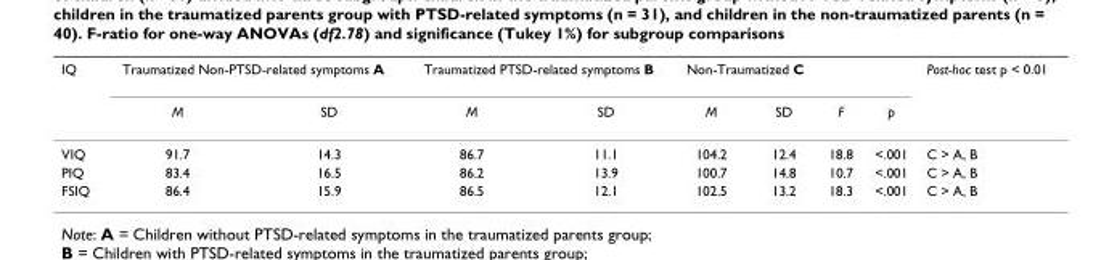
<table><thead><tr><td rowspan="2">IQ</td><td colspan="2">Traumatized Non-PTSD-related symptoms A</td><td colspan="2">Traumatized PTSD-related symptoms B</td><td colspan="2">Non-Traumatized C</td><td rowspan="2">F</td><td rowspan="2">p</td><td rowspan="2">Post-hoc test p &lt; 0.01</td></tr><tr><td>M</td><td>SD</td><td>M</td><td>SD</td><td>M</td><td>SD</td></tr></thead><tbody><tr><td>VIQ</td><td>91.7</td><td>14.3</td><td>86.7</td><td>11.1</td><td>104.2</td><td>12.4</td><td>18.8</td><td>&lt;.001</td><td>C &gt; A, B</td></tr><tr><td>PIQ</td><td>83.4</td><td>16.5</td><td>86.2</td><td>13.9</td><td>100.7</td><td>14.8</td><td>10.7</td><td>&lt;.001</td><td>C &gt; A, B</td></tr><tr><td>FSIQ</td><td>86.4</td><td>15.9</td><td>86.5</td><td>12.1</td><td>102.5</td><td>13.2</td><td>18.3</td><td>&lt;.001</td><td>C &gt; A, B</td></tr></tbody></table>